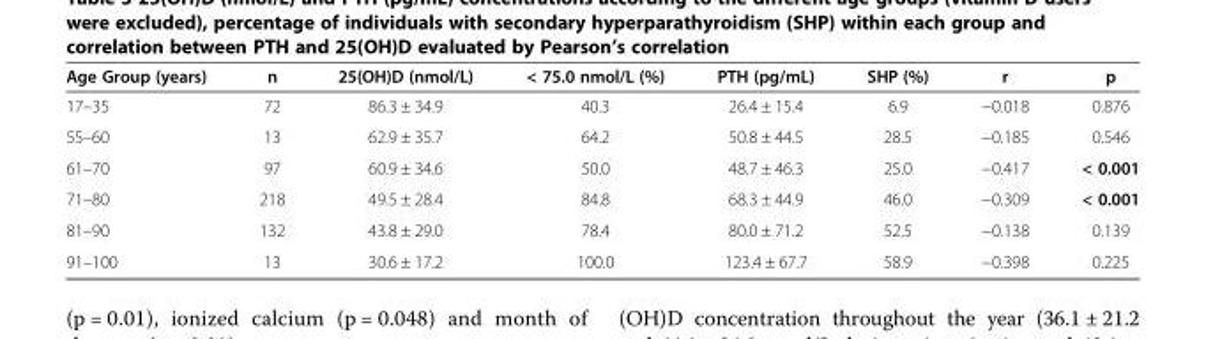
<table><thead><tr><td>Age Group (years)</td><td>n</td><td>25(OH)D (nmol/L)</td><td>&lt; 75.0 nmol/L (%)</td><td>PTH (pg/mL)</td><td>SHP (%)</td><td>r</td><td>p</td></tr></thead><tbody><tr><td>17–35</td><td>72</td><td>86.3 ± 34.9</td><td>40.3</td><td>26.4 ± 15.4</td><td>6.9</td><td>−0.018</td><td>0.876</td></tr><tr><td>55–60</td><td>13</td><td>62.9 ± 35.7</td><td>64.2</td><td>50.8 ± 44.5</td><td>28.5</td><td>−0.185</td><td>0.546</td></tr><tr><td>61–70</td><td>97</td><td>60.9 ± 34.6</td><td>50.0</td><td>48.7 ± 46.3</td><td>25.0</td><td>−0.417</td><td>&lt; 0.001</td></tr><tr><td>71–80</td><td>218</td><td>49.5 ± 28.4</td><td>84.8</td><td>68.3 ± 44.9</td><td>46.0</td><td>−0.309</td><td>&lt; 0.001</td></tr><tr><td>81–90</td><td>132</td><td>43.8 ± 29.0</td><td>78.4</td><td>80.0 ± 71.2</td><td>52.5</td><td>−0.138</td><td>0.139</td></tr><tr><td>91–100</td><td>13</td><td>30.6 ± 17.2</td><td>100.0</td><td>123.4 ± 67.7</td><td>58.9</td><td>−0.398</td><td>0.225</td></tr></tbody></table>